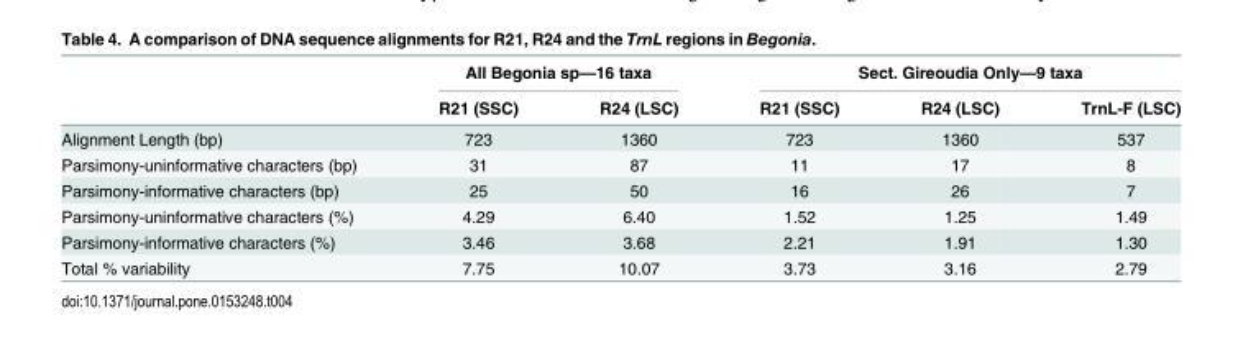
<table><thead><tr><td rowspan="2"></td><td colspan="2">All Begonia sp—16 taxa</td><td colspan="3">Sect. Gireoudia Only—9 taxa</td></tr><tr><td>R21 (SSC)</td><td>R24 (LSC)</td><td>R21 (SSC)</td><td>R24 (LSC)</td><td>TrnL-F (LSC)</td></tr></thead><tbody><tr><td>Alignment Length (bp)</td><td>723</td><td>1360</td><td>723</td><td>1360</td><td>537</td></tr><tr><td>Parsimony-uninformative characters (bp)</td><td>31</td><td>87</td><td>11</td><td>17</td><td>8</td></tr><tr><td>Parsimony-informative characters (bp)</td><td>25</td><td>50</td><td>16</td><td>26</td><td>7</td></tr><tr><td>Parsimony-uninformative characters (%)</td><td>4.29</td><td>6.40</td><td>1.52</td><td>1.25</td><td>1.49</td></tr><tr><td>Parsimony-informative characters (%)</td><td>3.46</td><td>3.68</td><td>2.21</td><td>1.91</td><td>1.30</td></tr><tr><td>Total % variability</td><td>7.75</td><td>10.07</td><td>3.73</td><td>3.16</td><td>2.79</td></tr></tbody></table>